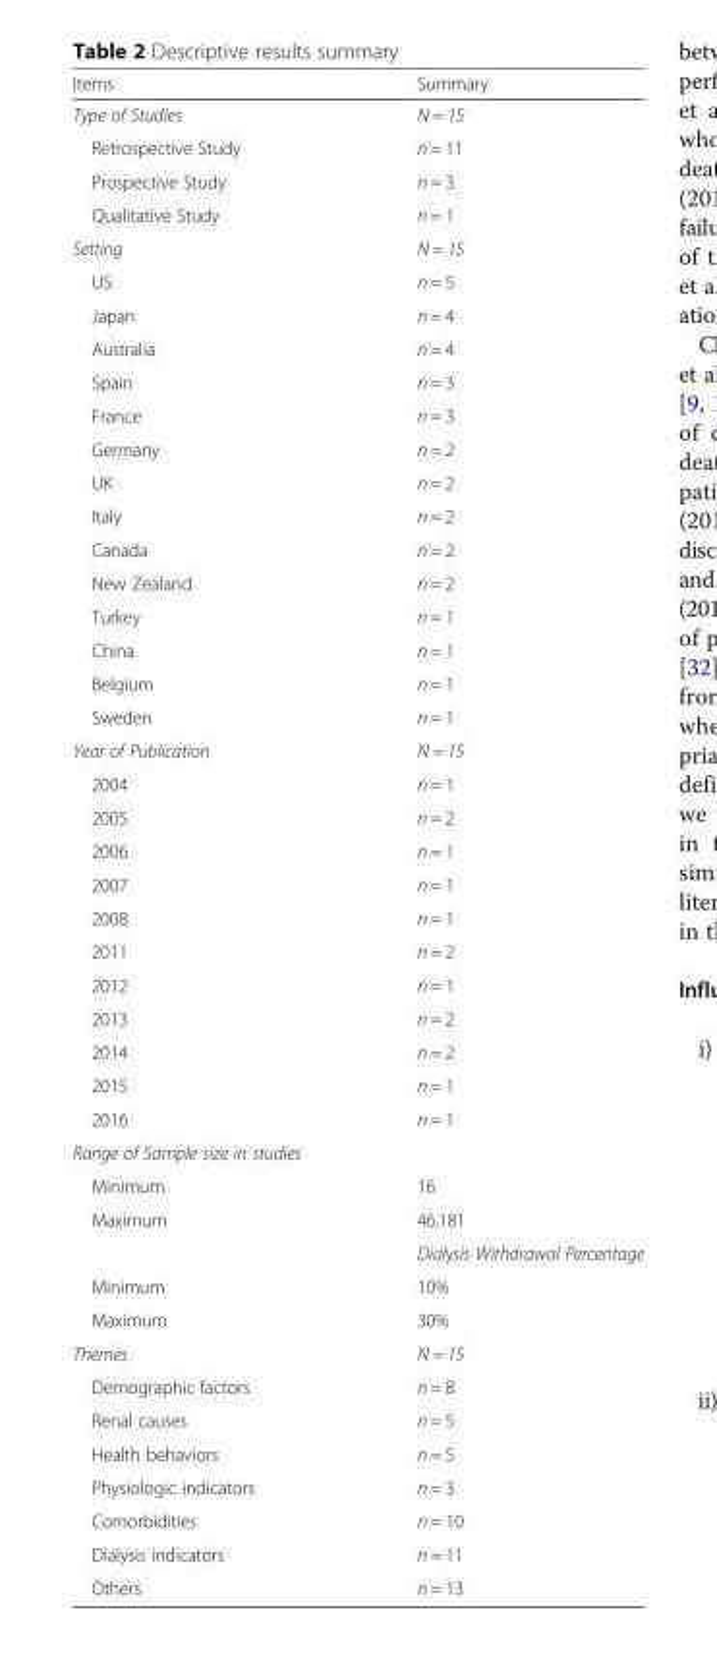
<table><thead><tr><td>Items</td><td>Summary</td></tr></thead><tbody><tr><td>Type of Studies</td><td>N = 15</td></tr><tr><td>Retrospective Study</td><td>n = 11</td></tr><tr><td>Prospective Study</td><td>n = 3</td></tr><tr><td>Qualitative Study</td><td>n = 1</td></tr><tr><td>Setting</td><td>N = 15</td></tr><tr><td>US</td><td>n = 5</td></tr><tr><td>Japan</td><td>n = 4</td></tr><tr><td>Australia</td><td>n = 4</td></tr><tr><td>Spain</td><td>n = 3</td></tr><tr><td>France</td><td>n = 3</td></tr><tr><td>Germany</td><td>n = 2</td></tr><tr><td>UK</td><td>n = 2</td></tr><tr><td>Italy</td><td>n = 2</td></tr><tr><td>Canada</td><td>n = 2</td></tr><tr><td>New Zealand</td><td>n = 2</td></tr><tr><td>Turkey</td><td>n = 1</td></tr><tr><td>China</td><td>n = 1</td></tr><tr><td>Belgium</td><td>n = 1</td></tr><tr><td>Sweden</td><td>n = 1</td></tr><tr><td>Year of Publication</td><td>N = 15</td></tr><tr><td>2004</td><td>n = 1</td></tr><tr><td>2005</td><td>n = 2</td></tr><tr><td>2006</td><td>n = 1</td></tr><tr><td>2007</td><td>n = 1</td></tr><tr><td>2008</td><td>n = 1</td></tr><tr><td>2011</td><td>n = 2</td></tr><tr><td>2012</td><td>n = 1</td></tr><tr><td>2013</td><td>n = 2</td></tr><tr><td>2014</td><td>n = 2</td></tr><tr><td>2015</td><td>n = 1</td></tr><tr><td>2016</td><td>n = 1</td></tr><tr><td colspan="2">Range of Sample size in studies</td></tr><tr><td>Minimum</td><td>16</td></tr><tr><td rowspan="2">Maximum</td><td>46,181</td></tr><tr><td>Dialysis Withdrawal Percentage</td></tr><tr><td>Minimum</td><td>10%</td></tr><tr><td>Maximum</td><td>30%</td></tr><tr><td>Themes</td><td>N = 15</td></tr><tr><td>Demographic factors</td><td>n = 8</td></tr><tr><td>Renal causes</td><td>n = 5</td></tr><tr><td>Health behaviors</td><td>n = 5</td></tr><tr><td>Physiologic indicators</td><td>n = 3</td></tr><tr><td>Comorbidities</td><td>n = 10</td></tr><tr><td>Dialysis indicators</td><td>n = 11</td></tr><tr><td>Others</td><td>n = 13</td></tr></tbody></table>